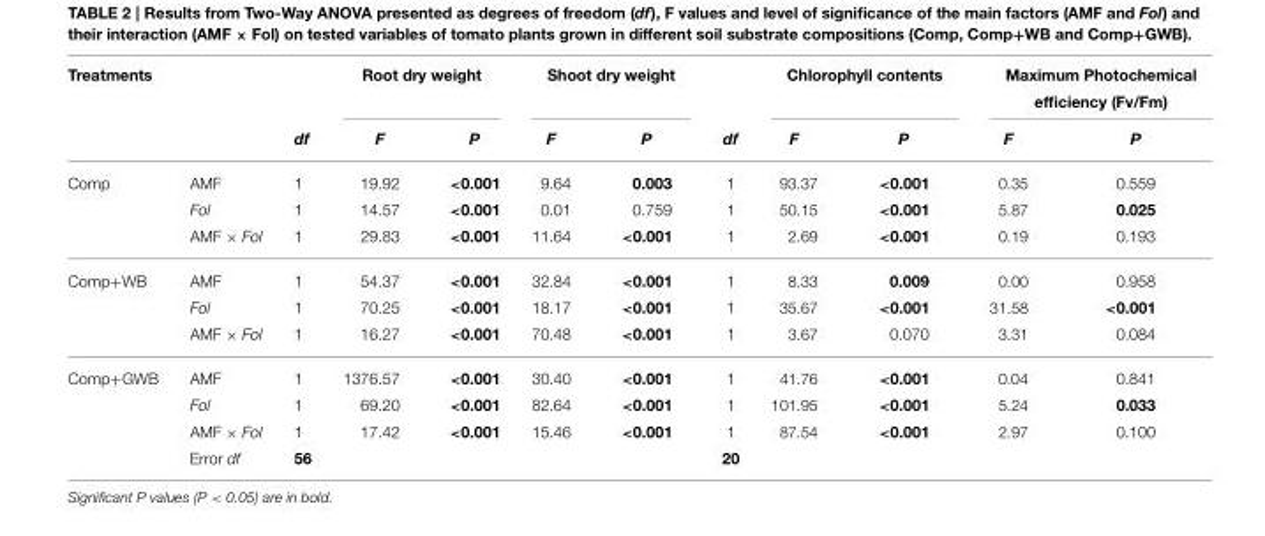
<table><thead><tr><td rowspan="2">Treatments</td><td rowspan="2"></td><td rowspan="2">df</td><td colspan="2">Root dry weight</td><td colspan="2">Shoot dry weight</td><td rowspan="2">df</td><td colspan="2">Chlorophyll contents</td><td colspan="2">Maximum Photochemical efficiency (Fv/Fm)</td></tr><tr><td>F</td><td>P</td><td>F</td><td>P</td><td>F</td><td>P</td><td>F</td><td>P</td></tr></thead><tbody><tr><td rowspan="3">Comp</td><td>AMF</td><td>1</td><td>19.92</td><td>&lt;0.001</td><td>9.64</td><td>0.003</td><td>1</td><td>93.37</td><td>&lt;0.001</td><td>0.35</td><td>0.559</td></tr><tr><td>Fol</td><td>1</td><td>14.57</td><td>&lt;0.001</td><td>0.01</td><td>0.759</td><td>1</td><td>50.15</td><td>&lt;0.001</td><td>5.87</td><td>0.025</td></tr><tr><td>AMF × Fol</td><td>1</td><td>29.83</td><td>&lt;0.001</td><td>11.64</td><td>&lt;0.001</td><td>1</td><td>2.69</td><td>&lt;0.001</td><td>0.19</td><td>0.193</td></tr><tr><td rowspan="3">Comp+WB</td><td>AMF</td><td>1</td><td>54.37</td><td>&lt;0.001</td><td>32.84</td><td>&lt;0.001</td><td>1</td><td>8.33</td><td>0.009</td><td>0.00</td><td>0.958</td></tr><tr><td>Fol</td><td>1</td><td>70.25</td><td>&lt;0.001</td><td>18.17</td><td>&lt;0.001</td><td>1</td><td>35.67</td><td>&lt;0.001</td><td>31.58</td><td>&lt;0.001</td></tr><tr><td>AMF × Fol</td><td>1</td><td>16.27</td><td>&lt;0.001</td><td>70.48</td><td>&lt;0.001</td><td>1</td><td>3.67</td><td>0.070</td><td>3.31</td><td>0.084</td></tr><tr><td rowspan="4">Comp+GWB</td><td>AMF</td><td>1</td><td>1376.57</td><td>&lt;0.001</td><td>30.40</td><td>&lt;0.001</td><td>1</td><td>41.76</td><td>&lt;0.001</td><td>0.04</td><td>0.841</td></tr><tr><td>Fol</td><td>1</td><td>69.20</td><td>&lt;0.001</td><td>82.64</td><td>&lt;0.001</td><td>1</td><td>101.95</td><td>&lt;0.001</td><td>5.24</td><td>0.033</td></tr><tr><td>AMF × Fol</td><td>1</td><td>17.42</td><td>&lt;0.001</td><td>15.46</td><td>&lt;0.001</td><td>1</td><td>87.54</td><td>&lt;0.001</td><td>2.97</td><td>0.100</td></tr><tr><td>Error df</td><td>56</td><td></td><td></td><td></td><td></td><td>20</td><td></td><td></td><td></td><td></td></tr></tbody></table>